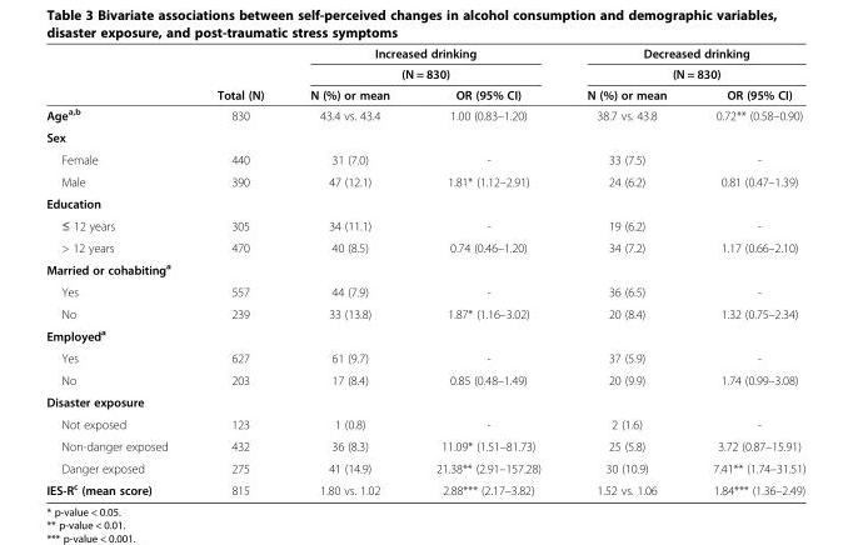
<table><thead><tr><td rowspan="3"></td><td rowspan="3">Total (N)</td><td rowspan="2" colspan="2">Increased drinking (N = 830)</td><td rowspan="2" colspan="2">Decreased drinking (N = 830)</td></tr><tr></tr><tr><td>N (%) or mean</td><td>OR (95% CI)</td><td>N (%) or mean</td><td>OR (95% CI)</td></tr></thead><tbody><tr><td>Age<sup>a,b</sup></td><td>830</td><td>43.4 vs. 43.4</td><td>1.00 (0.83–1.20)</td><td>38.7 vs. 43.8</td><td>0.72** (0.58–0.90)</td></tr><tr><td colspan="6">Sex</td></tr><tr><td>Female</td><td>440</td><td>31 (7.0)</td><td>-</td><td>33 (7.5)</td><td>-</td></tr><tr><td>Male</td><td>390</td><td>47 (12.1)</td><td>1.81* (1.12–2.91)</td><td>24 (6.2)</td><td>0.81 (0.47–1.39)</td></tr><tr><td colspan="6">Education</td></tr><tr><td>≤ 12 years</td><td>305</td><td>34 (11.1)</td><td>-</td><td>19 (6.2)</td><td>-</td></tr><tr><td>&gt; 12 years</td><td>470</td><td>40 (8.5)</td><td>0.74 (0.46–1.20)</td><td>34 (7.2)</td><td>1.17 (0.66–2.10)</td></tr><tr><td colspan="6">Married or cohabiting<sup>a</sup></td></tr><tr><td>Yes</td><td>557</td><td>44 (7.9)</td><td>-</td><td>36 (6.5)</td><td>-</td></tr><tr><td>No</td><td>239</td><td>33 (13.8)</td><td>1.87* (1.16–3.02)</td><td>20 (8.4)</td><td>1.32 (0.75–2.34)</td></tr><tr><td colspan="6">Employed<sup>a</sup></td></tr><tr><td>Yes</td><td>627</td><td>61 (9.7)</td><td>-</td><td>37 (5.9)</td><td>-</td></tr><tr><td>No</td><td>203</td><td>17 (8.4)</td><td>0.85 (0.48–1.49)</td><td>20 (9.9)</td><td>1.74 (0.99–3.08)</td></tr><tr><td colspan="6">Disaster exposure</td></tr><tr><td>Not exposed</td><td>123</td><td>1 (0.8)</td><td>-</td><td>2 (1.6)</td><td>-</td></tr><tr><td>Non-danger exposed</td><td>432</td><td>36 (8.3)</td><td>11.09* (1.51–81.73)</td><td>25 (5.8)</td><td>3.72 (0.87–15.91)</td></tr><tr><td>Danger exposed</td><td>275</td><td>41 (14.9)</td><td>21.38** (2.91–157.28)</td><td>30 (10.9)</td><td>7.41** (1.74–31.51)</td></tr><tr><td>IES-R<sup>c</sup> (mean score)</td><td>815</td><td>1.80 vs. 1.02</td><td>2.88*** (2.17–3.82)</td><td>1.52 vs. 1.06</td><td>1.84*** (1.36–2.49)</td></tr></tbody></table>